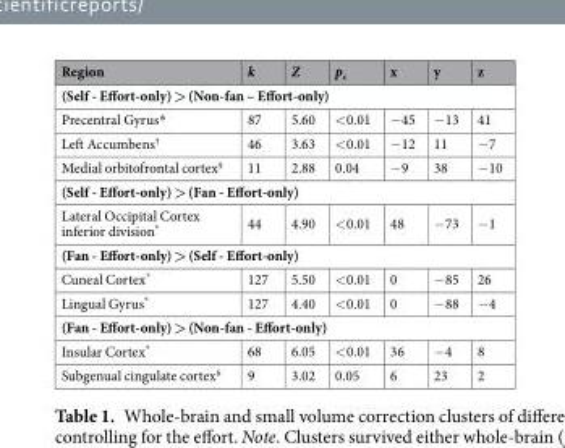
<table><thead><tr><td>Region</td><td>k</td><td>Z</td><td>p<sub>c</sub></td><td>x</td><td>y</td><td>z</td></tr></thead><tbody><tr><td colspan="7">(Self - Effort-only) &gt; (Non-fan – Effort-only)</td></tr><tr><td>Precentral Gyrus*</td><td>87</td><td>5.60</td><td>&lt;0.01</td><td>−45</td><td>−13</td><td>41</td></tr><tr><td>Left Accumbens<sup>†</sup></td><td>46</td><td>3.63</td><td>&lt;0.01</td><td>−12</td><td>11</td><td>−7</td></tr><tr><td>Medial orbitofrontal cortex<sup>§</sup></td><td>11</td><td>2.88</td><td>0.04</td><td>−9</td><td>38</td><td>−10</td></tr><tr><td colspan="7">(Self - Effort-only) &gt; (Fan - Effort-only)</td></tr><tr><td>Lateral Occipital Cortex inferior division*</td><td>44</td><td>4.90</td><td>&lt;0.01</td><td>48</td><td>−73</td><td>−1</td></tr><tr><td colspan="7">(Fan - Effort-only) &gt; (Self - Effort-only)</td></tr><tr><td>Cuneal Cortex*</td><td>127</td><td>5.50</td><td>&lt;0.01</td><td>0</td><td>−85</td><td>26</td></tr><tr><td>Lingual Gyrus*</td><td>127</td><td>4.40</td><td>&lt;0.01</td><td>0</td><td>−88</td><td>−4</td></tr><tr><td colspan="7">(Fan - Effort-only) &gt; (Non-fan - Effort-only)</td></tr><tr><td>Insular Cortex*</td><td>68</td><td>6.05</td><td>&lt;0.01</td><td>36</td><td>−4</td><td>8</td></tr><tr><td>Subgenual cingulate cortex<sup>§</sup></td><td>9</td><td>3.02</td><td>0.05</td><td>6</td><td>23</td><td>2</td></tr></tbody></table>